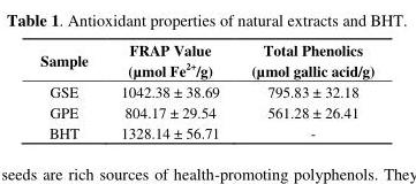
<table><thead><tr><td>Sample</td><td>FRAP Value (µmol Fe<sup>2+</sup>/g)</td><td>Total Phenolics (µmol gallic acid/g)</td></tr></thead><tbody><tr><td>GSE</td><td>1042.38 ± 38.69</td><td>795.83 ± 32.18</td></tr><tr><td>GPE</td><td>804.17 ± 29.54</td><td>561.28 ± 26.41</td></tr><tr><td>BHT</td><td>1328.14 ± 56.71</td><td>-</td></tr></tbody></table>